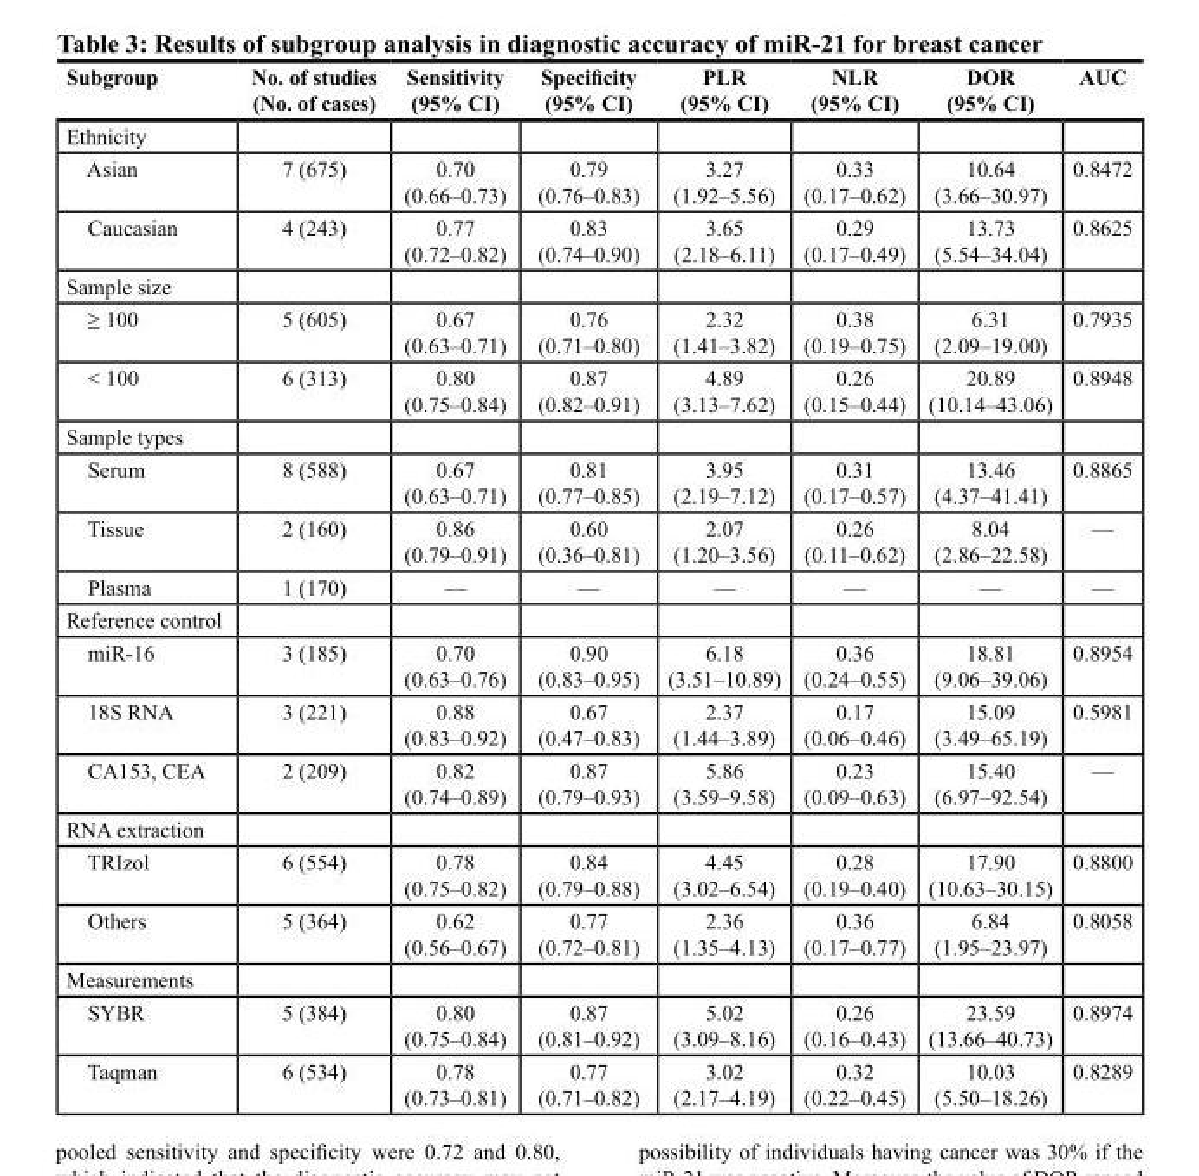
<table><thead><tr><td>subgroup</td><td>No. of studies (No. of cases)</td><td>sensitivity (95% CI)</td><td>Specificity (95% CI)</td><td>PLR (95% CI)</td><td>NLR (95% CI)</td><td>DOR (95% CI)</td><td>AUC</td></tr></thead><tbody><tr><td colspan="8">Ethnicity</td></tr><tr><td>Asian</td><td>7 (675)</td><td>0.70 (0.66–0.73)</td><td>0.79 (0.76–0.83)</td><td>3.27 (1.92–5.56)</td><td>0.33 (0.17–0.62)</td><td>10.64 (3.66–30.97)</td><td>0.8472</td></tr><tr><td>Caucasian</td><td>4 (243)</td><td>0.77 (0.72–0.82)</td><td>0.83 (0.74–0.90)</td><td>3.65 (2.18–6.11)</td><td>0.29 (0.17–0.49)</td><td>13.73 (5.54–34.04)</td><td>0.8625</td></tr><tr><td colspan="8">Sample size</td></tr><tr><td>≥ 100</td><td>5 (605)</td><td>0.67 (0.63–0.71)</td><td>0.76 (0.71–0.80)</td><td>2.32 (1.41–3.82)</td><td>0.38 (0.19–0.75)</td><td>6.31 (2.09–19.00)</td><td>0.7935</td></tr><tr><td>&lt; 100</td><td>6 (313)</td><td>0.80 (0.75–0.84)</td><td>0.87 (0.82–0.91)</td><td>4.89 (3.13–7.62)</td><td>0.26 (0.15–0.44)</td><td>20.89 (10.14–43.06)</td><td>0.8948</td></tr><tr><td colspan="8">Sample types</td></tr><tr><td>Serum</td><td>8 (588)</td><td>0.67 (0.63–0.71)</td><td>0.81 (0.77–0.85)</td><td>3.95 (2.19–7.12)</td><td>0.31 (0.17–0.57)</td><td>13.46 (4.37–41.41)</td><td>0.8865</td></tr><tr><td>Tissue</td><td>2 (160)</td><td>0.86 (0.79–0.91)</td><td>0.60 (0.36–0.81)</td><td>2.07 (1.20–3.56)</td><td>0.26 (0.11–0.62)</td><td>8.04 (2.86–22.58)</td><td>—</td></tr><tr><td>Plasma</td><td>1 (170)</td><td>—</td><td>—</td><td>—</td><td>—</td><td>—</td><td>—</td></tr><tr><td colspan="8">Reference control</td></tr><tr><td>miR-16</td><td>3 (185)</td><td>0.70 (0.63–0.76)</td><td>0.90 (0.83–0.95)</td><td>6.18 (3.51–10.89)</td><td>0.36 (0.24–0.55)</td><td>18.81 (9.06–39.06)</td><td>0.8954</td></tr><tr><td>18S RNA</td><td>3 (221)</td><td>0.88 (0.83–0.92)</td><td>0.67 (0.47–0.83)</td><td>2.37 (1.44–3.89)</td><td>0.17 (0.06–0.46)</td><td>15.09 (3.49–65.19)</td><td>0.5981</td></tr><tr><td>CA153, CEA</td><td>2 (209)</td><td>0.82 (0.74–0.89)</td><td>0.87 (0.79–0.93)</td><td>5.86 (3.59–9.58)</td><td>0.23 (0.09–0.63)</td><td>15.40 (6.97–92.54)</td><td>—</td></tr><tr><td colspan="8">RNA extraction</td></tr><tr><td>TRIzol</td><td>6 (554)</td><td>0.78 (0.75–0.82)</td><td>0.84 (0.79–0.88)</td><td>4.45 (3.02–6.54)</td><td>0.28 (0.19–0.40)</td><td>17.90 (10.63–30.15)</td><td>0.8800</td></tr><tr><td>Others</td><td>5 (364)</td><td>0.62 (0.56–0.67)</td><td>0.77 (0.72–0.81)</td><td>2.36 (1.35–4.13)</td><td>0.36 (0.17–0.77)</td><td>6.84 (1.95–23.97)</td><td>0.8058</td></tr><tr><td colspan="8">Measurements</td></tr><tr><td>SYBR</td><td>5 (384)</td><td>0.80 (0.75–0.84)</td><td>0.87 (0.81–0.92)</td><td>5.02 (3.09–8.16)</td><td>0.26 (0.16–0.43)</td><td>23.59 (13.66–40.73)</td><td>0.8974</td></tr><tr><td>Taqman</td><td>6 (534)</td><td>0.78 (0.73–0.81)</td><td>0.77 (0.71–0.82)</td><td>3.02 (2.17–4.19)</td><td>0.32 (0.22–0.45)</td><td>10.03 (5.50–18.26)</td><td>0.8289</td></tr></tbody></table>